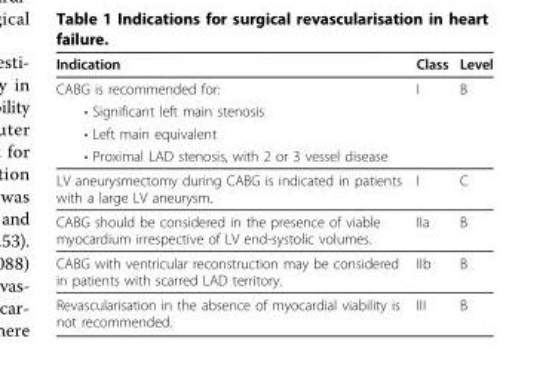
<table><thead><tr><td>Indication</td><td>Class</td><td>Level</td></tr></thead><tbody><tr><td>CABG is recommended for:</td><td>I</td><td>B</td></tr><tr><td colspan="3">• Significant left main stenosis</td></tr><tr><td colspan="3">• Left main equivalent</td></tr><tr><td colspan="3">• Proximal LAD stenosis, with 2 or 3 vessel disease</td></tr><tr><td>LV aneurysmectomy during CABG is indicated in patients with a large LV aneurysm.</td><td>I</td><td>C</td></tr><tr><td>CABG should be considered in the presence of viable myocardium irrespective of LV end-systolic volumes.</td><td>IIa</td><td>B</td></tr><tr><td>CABG with ventricular reconstruction may be considered in patients with scarred LAD territory.</td><td>IIb</td><td>B</td></tr><tr><td>Revascularisation in the absence of myocardial viability is not recommended.</td><td>III</td><td>B</td></tr></tbody></table>